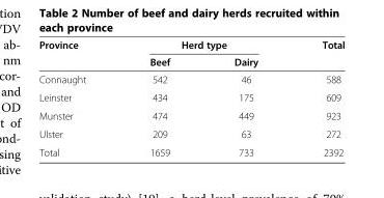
<table><thead><tr><td rowspan="2">Province</td><td colspan="2">Herd type</td><td rowspan="2">Total</td></tr><tr><td>Beef</td><td>Dairy</td></tr></thead><tbody><tr><td>Connaught</td><td>542</td><td>46</td><td>588</td></tr><tr><td>Leinster</td><td>434</td><td>175</td><td>609</td></tr><tr><td>Munster</td><td>474</td><td>449</td><td>923</td></tr><tr><td>Ulster</td><td>209</td><td>63</td><td>272</td></tr><tr><td>Total</td><td>1659</td><td>733</td><td>2392</td></tr></tbody></table>